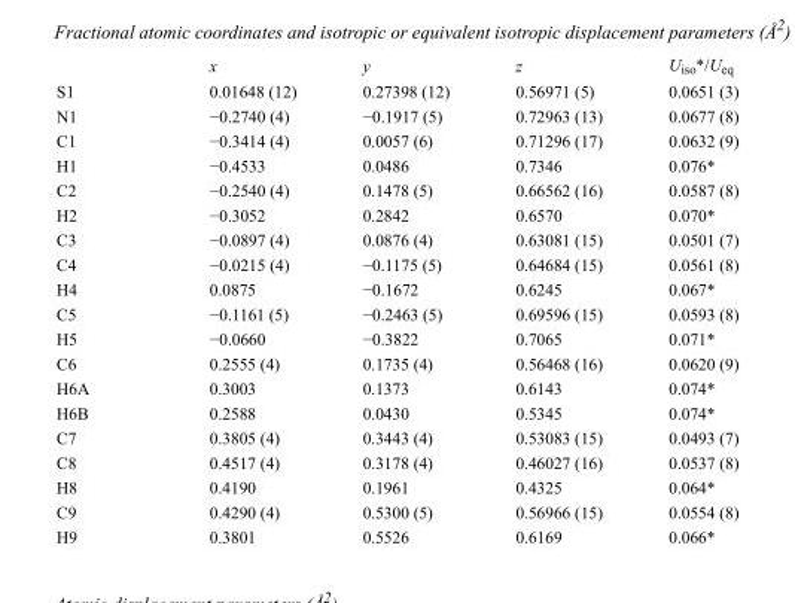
<table><thead><tr><td></td><td>x</td><td>y</td><td>z</td><td>U<sub>iso</sub>*/U<sub>eq</sub></td></tr></thead><tbody><tr><td>S1</td><td>0.01648 (12)</td><td>0.27398 (12)</td><td>0.56971 (5)</td><td>0.0651 (3)</td></tr><tr><td>N1</td><td>−0.2740 (4)</td><td>−0.1917 (5)</td><td>0.72963 (13)</td><td>0.0677 (8)</td></tr><tr><td>C1</td><td>−0.3414 (4)</td><td>0.0057 (6)</td><td>0.71296 (17)</td><td>0.0632 (9)</td></tr><tr><td>H1</td><td>−0.4533</td><td>0.0486</td><td>0.7346</td><td>0.076*</td></tr><tr><td>C2</td><td>−0.2540 (4)</td><td>0.1478 (5)</td><td>0.66562 (16)</td><td>0.0587 (8)</td></tr><tr><td>H2</td><td>−0.3052</td><td>0.2842</td><td>0.6570</td><td>0.070*</td></tr><tr><td>C3</td><td>−0.0897 (4)</td><td>0.0876 (4)</td><td>0.63081 (15)</td><td>0.0501 (7)</td></tr><tr><td>C4</td><td>−0.0215 (4)</td><td>−0.1175 (5)</td><td>0.64684 (15)</td><td>0.0561 (8)</td></tr><tr><td>H4</td><td>0.0875</td><td>−0.1672</td><td>0.6245</td><td>0.067*</td></tr><tr><td>C5</td><td>−0.1161 (5)</td><td>−0.2463 (5)</td><td>0.69596 (15)</td><td>0.0593 (8)</td></tr><tr><td>H5</td><td>−0.0660</td><td>−0.3822</td><td>0.7065</td><td>0.071*</td></tr><tr><td>C6</td><td>0.2555 (4)</td><td>0.1735 (4)</td><td>0.56468 (16)</td><td>0.0620 (9)</td></tr><tr><td>H6A</td><td>0.3003</td><td>0.1373</td><td>0.6143</td><td>0.074*</td></tr><tr><td>H6B</td><td>0.2588</td><td>0.0430</td><td>0.5345</td><td>0.074*</td></tr><tr><td>C7</td><td>0.3805 (4)</td><td>0.3443 (4)</td><td>0.53083 (15)</td><td>0.0493 (7)</td></tr><tr><td>C8</td><td>0.4517 (4)</td><td>0.3178 (4)</td><td>0.46027 (16)</td><td>0.0537 (8)</td></tr><tr><td>H8</td><td>0.4190</td><td>0.1961</td><td>0.4325</td><td>0.064*</td></tr><tr><td>C9</td><td>0.4290 (4)</td><td>0.5300 (5)</td><td>0.56966 (15)</td><td>0.0554 (8)</td></tr><tr><td>H9</td><td>0.3801</td><td>0.5526</td><td>0.6169</td><td>0.066*</td></tr></tbody></table>